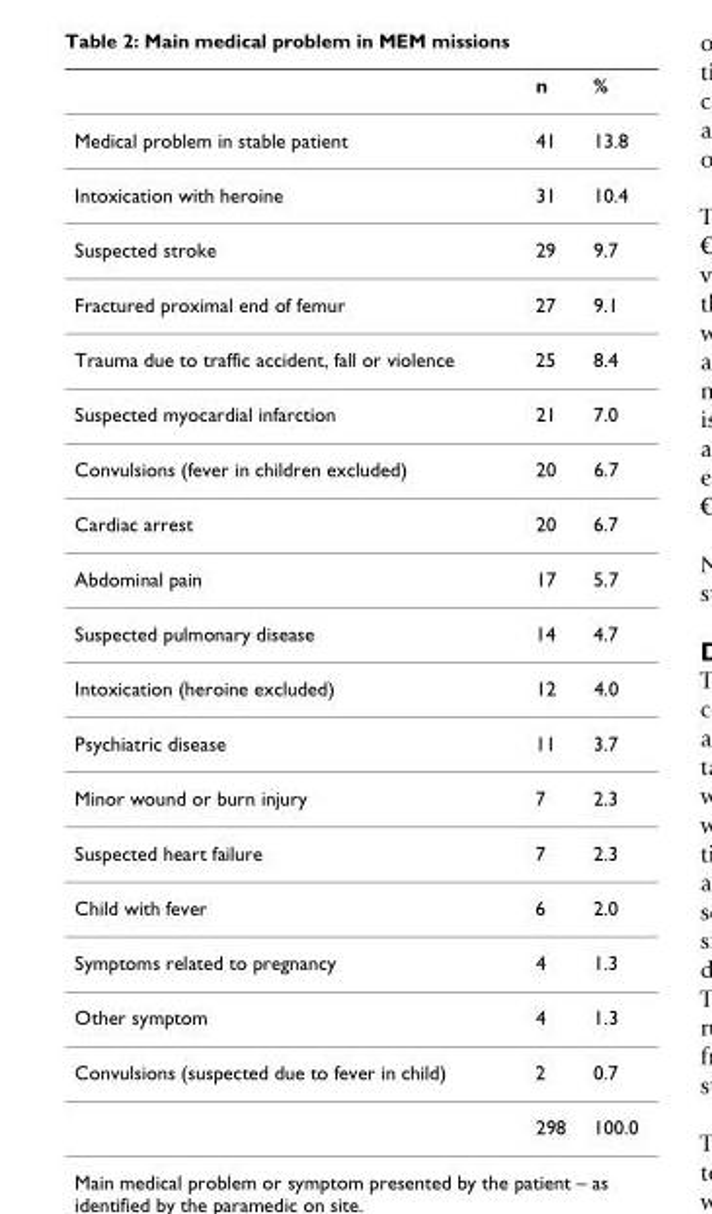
<table><thead><tr><td></td><td>n</td><td>%</td></tr></thead><tbody><tr><td>Medical problem in stable patient</td><td>41</td><td>13.8</td></tr><tr><td>Intoxication with heroine</td><td>31</td><td>10.4</td></tr><tr><td>Suspected stroke</td><td>29</td><td>9.7</td></tr><tr><td>Fractured proximal end of femur</td><td>27</td><td>9.1</td></tr><tr><td>Trauma due to traffic accident, fall or violence</td><td>25</td><td>8.4</td></tr><tr><td>Suspected myocardial infarction</td><td>21</td><td>7.0</td></tr><tr><td>Convulsions (fever in children excluded)</td><td>20</td><td>6.7</td></tr><tr><td>Cardiac arrest</td><td>20</td><td>6.7</td></tr><tr><td>Abdominal pain</td><td>17</td><td>5.7</td></tr><tr><td>Suspected pulmonary disease</td><td>14</td><td>4.7</td></tr><tr><td>Intoxication (heroine excluded)</td><td>12</td><td>4.0</td></tr><tr><td>Psychiatric disease</td><td>11</td><td>3.7</td></tr><tr><td>Minor wound or burn injury</td><td>7</td><td>2.3</td></tr><tr><td>Suspected heart failure</td><td>7</td><td>2.3</td></tr><tr><td>Child with fever</td><td>6</td><td>2.0</td></tr><tr><td>Symptoms related to pregnancy</td><td>4</td><td>1.3</td></tr><tr><td>Other symptom</td><td>4</td><td>1.3</td></tr><tr><td rowspan="2">Convulsions (suspected due to fever in child)</td><td>2</td><td>0.7</td></tr><tr><td>298</td><td>100.0</td></tr></tbody></table>